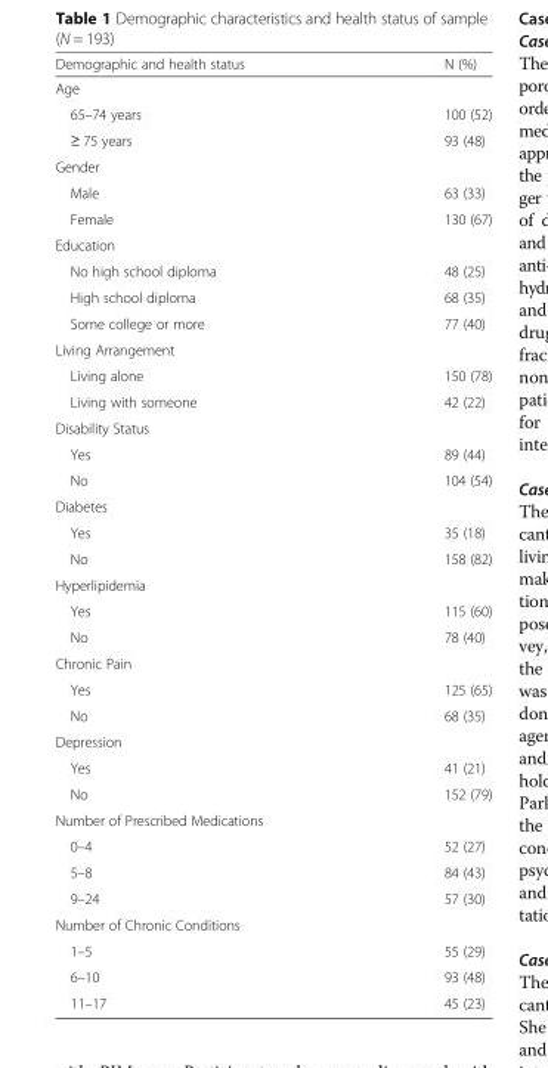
<table><thead><tr><td>Demographic and health status</td><td>N (%)</td></tr></thead><tbody><tr><td colspan="2">Age</td></tr><tr><td>65–74 years</td><td>100 (52)</td></tr><tr><td>≥ 75 years</td><td>93 (48)</td></tr><tr><td colspan="2">Gender</td></tr><tr><td>Male</td><td>63 (33)</td></tr><tr><td>Female</td><td>130 (67)</td></tr><tr><td colspan="2">Education</td></tr><tr><td>No high school diploma</td><td>48 (25)</td></tr><tr><td>High school diploma</td><td>68 (35)</td></tr><tr><td>Some college or more</td><td>77 (40)</td></tr><tr><td colspan="2">Living Arrangement</td></tr><tr><td>Living alone</td><td>150 (78)</td></tr><tr><td>Living with someone</td><td>42 (22)</td></tr><tr><td colspan="2">Disability Status</td></tr><tr><td>Yes</td><td>89 (44)</td></tr><tr><td>No</td><td>104 (54)</td></tr><tr><td colspan="2">Diabetes</td></tr><tr><td>Yes</td><td>35 (18)</td></tr><tr><td>No</td><td>158 (82)</td></tr><tr><td colspan="2">Hyperlipidemia</td></tr><tr><td>Yes</td><td>115 (60)</td></tr><tr><td>No</td><td>78 (40)</td></tr><tr><td colspan="2">Chronic Pain</td></tr><tr><td>Yes</td><td>125 (65)</td></tr><tr><td>No</td><td>68 (35)</td></tr><tr><td colspan="2">Depression</td></tr><tr><td>Yes</td><td>41 (21)</td></tr><tr><td>No</td><td>152 (79)</td></tr><tr><td colspan="2">Number of Prescribed Medications</td></tr><tr><td>0–4</td><td>52 (27)</td></tr><tr><td>5–8</td><td>84 (43)</td></tr><tr><td>9–24</td><td>57 (30)</td></tr><tr><td colspan="2">Number of Chronic Conditions</td></tr><tr><td>1–5</td><td>55 (29)</td></tr><tr><td>6–10</td><td>93 (48)</td></tr><tr><td>11–17</td><td>45 (23)</td></tr></tbody></table>